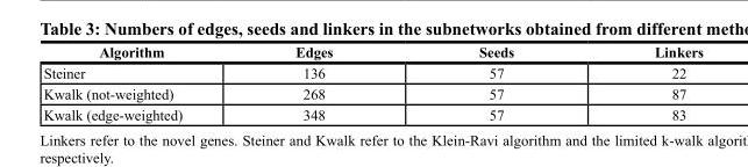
<table><thead><tr><td>Algorithm</td><td>Edges</td><td>Seeds</td><td>Linkers</td></tr></thead><tbody><tr><td>Steiner</td><td>136</td><td>57</td><td>22</td></tr><tr><td>Kwalk (not-weighted)</td><td>268</td><td>57</td><td>87</td></tr><tr><td>Kwalk (edge-weighted)</td><td>348</td><td>57</td><td>83</td></tr></tbody></table>